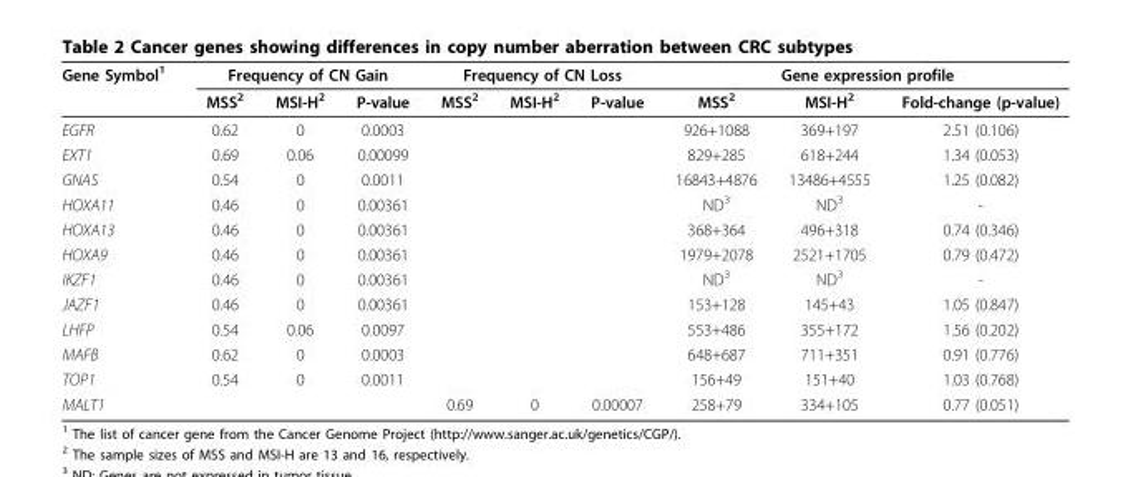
<table><thead><tr><td rowspan="2">Gene Symbol<sup>1</sup></td><td colspan="3">Frequency of CN Gain</td><td colspan="3">Frequency of CN Loss</td><td colspan="3">Gene expression profile</td></tr><tr><td>MSS<sup>2</sup></td><td>MSI-H<sup>2</sup></td><td>P-value</td><td>MSS<sup>2</sup></td><td>MSI-H<sup>2</sup></td><td>P-value</td><td>MSS<sup>2</sup></td><td>MSI-H<sup>2</sup></td><td>Fold-change (p-value)</td></tr></thead><tbody><tr><td>EGFR</td><td>0.62</td><td>0</td><td>0.0003</td><td></td><td></td><td></td><td>926+1088</td><td>369+197</td><td>2.51 (0.106)</td></tr><tr><td>EXT1</td><td>0.69</td><td>0.06</td><td>0.00099</td><td></td><td></td><td></td><td>829+285</td><td>618+244</td><td>1.34 (0.053)</td></tr><tr><td>GNAS</td><td>0.54</td><td>0</td><td>0.0011</td><td></td><td></td><td></td><td>16843+4876</td><td>13486+4555</td><td>1.25 (0.082)</td></tr><tr><td>HOXA11</td><td>0.46</td><td>0</td><td>0.00361</td><td></td><td></td><td></td><td>ND<sup>3</sup></td><td>ND<sup>3</sup></td><td>-</td></tr><tr><td>HOXA13</td><td>0.46</td><td>0</td><td>0.00361</td><td></td><td></td><td></td><td>368+364</td><td>496+318</td><td>0.74 (0.346)</td></tr><tr><td>HOXA9</td><td>0.46</td><td>0</td><td>0.00361</td><td></td><td></td><td></td><td>1979+2078</td><td>2521+1705</td><td>0.79 (0.472)</td></tr><tr><td>IKZF1</td><td>0.46</td><td>0</td><td>0.00361</td><td></td><td></td><td></td><td>ND<sup>3</sup></td><td>ND<sup>3</sup></td><td>-</td></tr><tr><td>JAZF1</td><td>0.46</td><td>0</td><td>0.00361</td><td></td><td></td><td></td><td>153+128</td><td>145+43</td><td>1.05 (0.847)</td></tr><tr><td>LHFP</td><td>0.54</td><td>0.06</td><td>0.0097</td><td></td><td></td><td></td><td>553+486</td><td>355+172</td><td>1.56 (0.202)</td></tr><tr><td>MAFB</td><td>0.62</td><td>0</td><td>0.0003</td><td></td><td></td><td></td><td>648+687</td><td>711+351</td><td>0.91 (0.776)</td></tr><tr><td>TOP1</td><td>0.54</td><td>0</td><td>0.0011</td><td></td><td></td><td></td><td>156+49</td><td>151+40</td><td>1.03 (0.768)</td></tr><tr><td>MALT1</td><td></td><td></td><td></td><td>0.69</td><td>0</td><td>0.00007</td><td>258+79</td><td>334+105</td><td>0.77 (0.051)</td></tr></tbody></table>